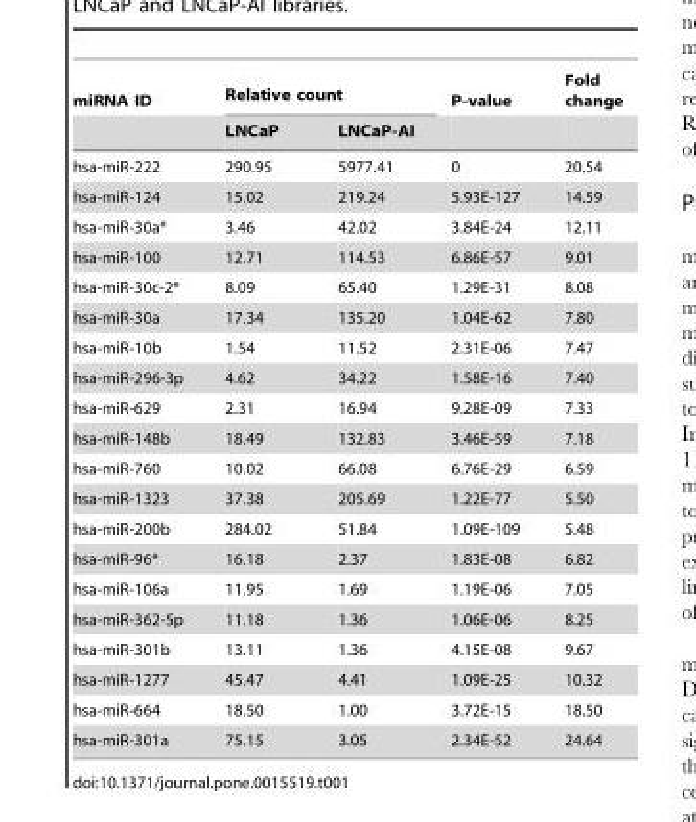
<table><thead><tr><td rowspan="2">miRNA ID</td><td colspan="2">Relative count</td><td rowspan="2">P-value</td><td rowspan="2">Fold change</td></tr><tr><td>LNCaP</td><td>LNCaP-AI</td></tr></thead><tbody><tr><td>hsa-miR-222</td><td>290.95</td><td>5977.41</td><td>0</td><td>20.54</td></tr><tr><td>hsa-miR-124</td><td>15.02</td><td>219.24</td><td>5.93E-127</td><td>14.59</td></tr><tr><td>hsa-miR-30a*</td><td>3.46</td><td>42.02</td><td>3.84E-24</td><td>12.11</td></tr><tr><td>hsa-miR-100</td><td>12.71</td><td>114.53</td><td>6.86E-57</td><td>9.01</td></tr><tr><td>hsa-miR-30c-2*</td><td>8.09</td><td>65.40</td><td>1.29E-31</td><td>8.08</td></tr><tr><td>hsa-miR-30a</td><td>17.34</td><td>135.20</td><td>1.04E-62</td><td>7.80</td></tr><tr><td>hsa-miR-10b</td><td>1.54</td><td>11.52</td><td>2.31E-06</td><td>7.47</td></tr><tr><td>hsa-miR-296-3p</td><td>4.62</td><td>34.22</td><td>1.58E-16</td><td>7.40</td></tr><tr><td>hsa-miR-629</td><td>2.31</td><td>16.94</td><td>9.28E-09</td><td>7.33</td></tr><tr><td>hsa-miR-148b</td><td>18.49</td><td>132.83</td><td>3.46E-59</td><td>7.18</td></tr><tr><td>hsa-miR-760</td><td>10.02</td><td>66.08</td><td>6.76E-29</td><td>6.59</td></tr><tr><td>hsa-miR-1323</td><td>37.38</td><td>205.69</td><td>1.22E-77</td><td>5.50</td></tr><tr><td>hsa-miR-200b</td><td>284.02</td><td>51.84</td><td>1.09E-109</td><td>5.48</td></tr><tr><td>hsa-miR-96*</td><td>16.18</td><td>2.37</td><td>1.83E-08</td><td>6.82</td></tr><tr><td>hsa-miR-106a</td><td>11.95</td><td>1.69</td><td>1.19E-06</td><td>7.05</td></tr><tr><td>hsa-miR-362-5p</td><td>11.18</td><td>1.36</td><td>1.06E-06</td><td>8.25</td></tr><tr><td>hsa-miR-301b</td><td>13.11</td><td>1.36</td><td>4.15E-08</td><td>9.67</td></tr><tr><td>hsa-miR-1277</td><td>45.47</td><td>4.41</td><td>1.09E-25</td><td>10.32</td></tr><tr><td>hsa-miR-664</td><td>18.50</td><td>1.00</td><td>3.72E-15</td><td>18.50</td></tr><tr><td>hsa-miR-301a</td><td>75.15</td><td>3.05</td><td>2.34E-52</td><td>24.64</td></tr></tbody></table>